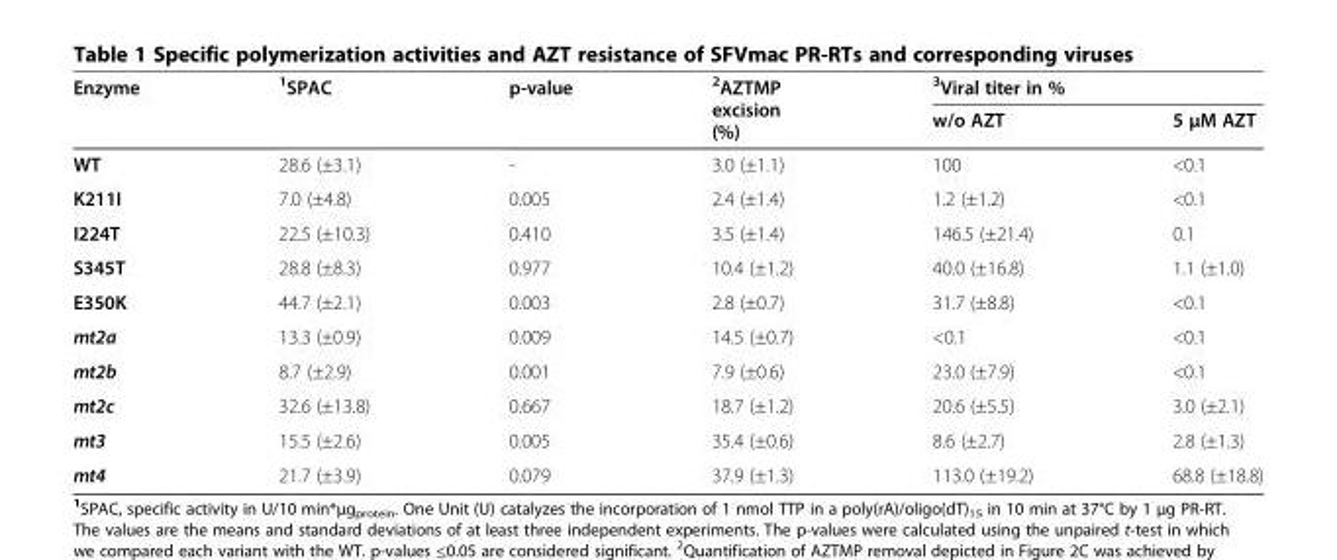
<table><thead><tr><td rowspan="2">Enzyme</td><td rowspan="2"><sup>1</sup>SPAC</td><td rowspan="2">p-value</td><td rowspan="2"><sup>2</sup>AZTMP excision (%)</td><td colspan="2"><sup>3</sup>Viral titer in %</td></tr><tr><td>w/o AZT</td><td>5 μM AZT</td></tr></thead><tbody><tr><td>WT</td><td>28.6 (±3.1)</td><td>-</td><td>3.0 (±1.1)</td><td>100</td><td>&lt;0.1</td></tr><tr><td>K211I</td><td>7.0 (±4.8)</td><td>0.005</td><td>2.4 (±1.4)</td><td>1.2 (±1.2)</td><td>&lt;0.1</td></tr><tr><td>I224T</td><td>22.5 (±10.3)</td><td>0.410</td><td>3.5 (±1.4)</td><td>146.5 (±21.4)</td><td>0.1</td></tr><tr><td>S345T</td><td>28.8 (±8.3)</td><td>0.977</td><td>10.4 (±1.2)</td><td>40.0 (±16.8)</td><td>1.1 (±1.0)</td></tr><tr><td>E350K</td><td>44.7 (±2.1)</td><td>0.003</td><td>2.8 (±0.7)</td><td>31.7 (±8.8)</td><td>&lt;0.1</td></tr><tr><td>mt2a</td><td>13.3 (±0.9)</td><td>0.009</td><td>14.5 (±0.7)</td><td>&lt;0.1</td><td>&lt;0.1</td></tr><tr><td>mt2b</td><td>8.7 (±2.9)</td><td>0.001</td><td>7.9 (±0.6)</td><td>23.0 (±7.9)</td><td>&lt;0.1</td></tr><tr><td>mt2c</td><td>32.6 (±13.8)</td><td>0.667</td><td>18.7 (±1.2)</td><td>20.6 (±5.5)</td><td>3.0 (±2.1)</td></tr><tr><td>mt3</td><td>15.5 (±2.6)</td><td>0.005</td><td>35.4 (±0.6)</td><td>8.6 (±2.7)</td><td>2.8 (±1.3)</td></tr><tr><td>mt4</td><td>21.7 (±3.9)</td><td>0.079</td><td>37.9 (±1.3)</td><td>113.0 (±19.2)</td><td>68.8 (±18.8)</td></tr></tbody></table>